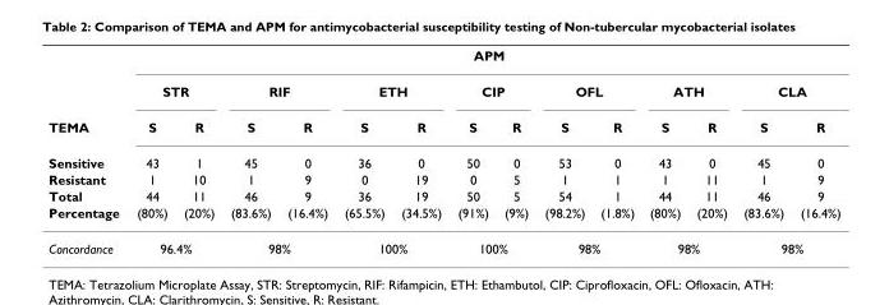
<table><thead><tr><td rowspan="7">TEMA Sensitive Resistant Total Percentage</td><td colspan="14">APM</td></tr><tr><td colspan="2">STR</td><td colspan="2">RIF</td><td colspan="2">ETH</td><td colspan="2">CIP</td><td colspan="2">OFL</td><td colspan="2">ATH</td><td colspan="2">CLA</td></tr><tr><td rowspan="5">S 43 1 44 (80%)</td><td rowspan="5">R 1 10 11 (20%)</td><td rowspan="5">S 45 1 46 (83.6%)</td><td rowspan="5">R 0 9 9 (16.4%)</td><td rowspan="5">S 36 0 36 (65.5%)</td><td rowspan="5">R 0 19 19 (34.5%)</td><td rowspan="5">S 50 0 50 (91%)</td><td rowspan="5">R 0 5 5 (9%)</td><td rowspan="5">S 53 1 54 (98.2%)</td><td rowspan="5">R 0 1 1 (1.8%)</td><td rowspan="5">S 43 1 44 (80%)</td><td rowspan="5">R 0 11 11 (20%)</td><td rowspan="5">S 45 1 46 (83.6%)</td><td rowspan="5">R 0 9 9 (16.4%)</td></tr><tr></tr><tr></tr><tr></tr><tr></tr></thead><tbody><tr><td>Concordance</td><td colspan="2">96.4%</td><td colspan="2">98%</td><td colspan="2">100%</td><td colspan="2">100%</td><td colspan="2">98%</td><td colspan="2">98%</td><td colspan="2">98%</td></tr></tbody></table>